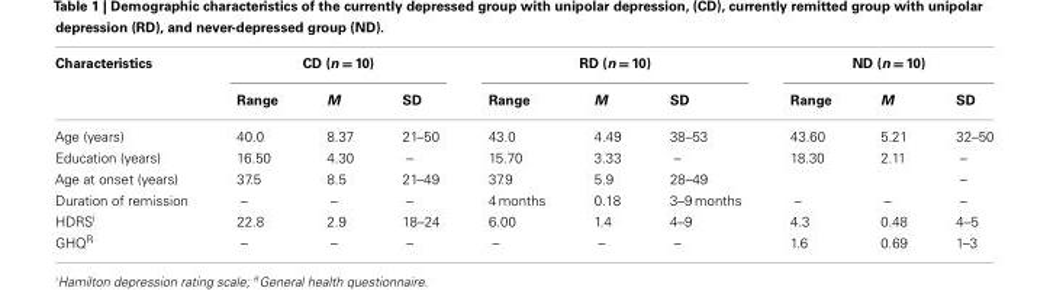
<table><thead><tr><td rowspan="2">Characteristics</td><td colspan="3">CD (n = 10)</td><td colspan="3">RD (n = 10)</td><td colspan="3">ND (n = 10)</td></tr><tr><td>Range</td><td>M</td><td>SD</td><td>Range</td><td>M</td><td>SD</td><td>Range</td><td>M</td><td>SD</td></tr></thead><tbody><tr><td>Age (years)</td><td>40.0</td><td>8.37</td><td>21–50</td><td>43.0</td><td>4.49</td><td>38–53</td><td>43.60</td><td>5.21</td><td>32–50</td></tr><tr><td>Education (years)</td><td>16.50</td><td>4.30</td><td>–</td><td>15.70</td><td>3.33</td><td>–</td><td>18.30</td><td>2.11</td><td>–</td></tr><tr><td>Age at onset (years)</td><td>37.5</td><td>8.5</td><td>21–49</td><td>37.9</td><td>5.9</td><td>28–49</td><td></td><td></td><td>–</td></tr><tr><td>Duration of remission</td><td>–</td><td>–</td><td>–</td><td>4 months</td><td>0.18</td><td>3–9 months</td><td>–</td><td>–</td><td>–</td></tr><tr><td>HDRS<sup>i</sup></td><td>22.8</td><td>2.9</td><td>18–24</td><td>6.00</td><td>1.4</td><td>4–9</td><td>4.3</td><td>0.48</td><td>4–5</td></tr><tr><td>GHQ<sup>R</sup></td><td>–</td><td>–</td><td>–</td><td>–</td><td>–</td><td>–</td><td>1.6</td><td>0.69</td><td>1–3</td></tr></tbody></table>